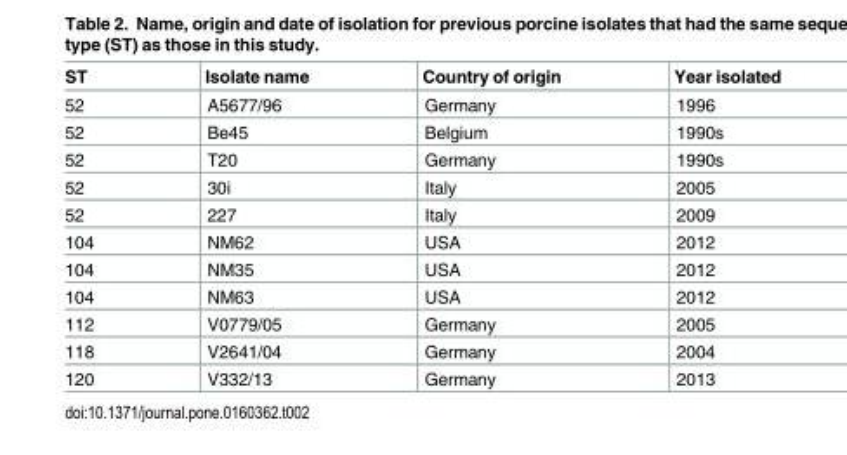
<table><thead><tr><td>ST</td><td>Isolate name</td><td>Country of origin</td><td>Year isolated</td></tr></thead><tbody><tr><td>52</td><td>A5677/96</td><td>Germany</td><td>1996</td></tr><tr><td>52</td><td>Be45</td><td>Belgium</td><td>1990s</td></tr><tr><td>52</td><td>T20</td><td>Germany</td><td>1990s</td></tr><tr><td>52</td><td>30i</td><td>Italy</td><td>2005</td></tr><tr><td>52</td><td>227</td><td>Italy</td><td>2009</td></tr><tr><td>104</td><td>NM62</td><td>USA</td><td>2012</td></tr><tr><td>104</td><td>NM35</td><td>USA</td><td>2012</td></tr><tr><td>104</td><td>NM63</td><td>USA</td><td>2012</td></tr><tr><td>112</td><td>V0779/05</td><td>Germany</td><td>2005</td></tr><tr><td>118</td><td>V2641/04</td><td>Germany</td><td>2004</td></tr><tr><td>120</td><td>V332/13</td><td>Germany</td><td>2013</td></tr></tbody></table>